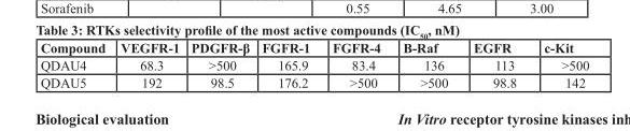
<table><thead><tr><td>Compound</td><td>VEGFR-1</td><td>PDGFR-β</td><td>FGFR-1</td><td>FGFR-4</td><td>B-Raf</td><td>EGFR</td><td>c-Kit</td></tr></thead><tbody><tr><td>QDAU4</td><td>68.3</td><td>&gt;500</td><td>165.9</td><td>83.4</td><td>136</td><td>113</td><td>&gt;500</td></tr><tr><td>QDAU5</td><td>192</td><td>98.5</td><td>176.2</td><td>&gt;500</td><td>&gt;500</td><td>98.8</td><td>142</td></tr></tbody></table>